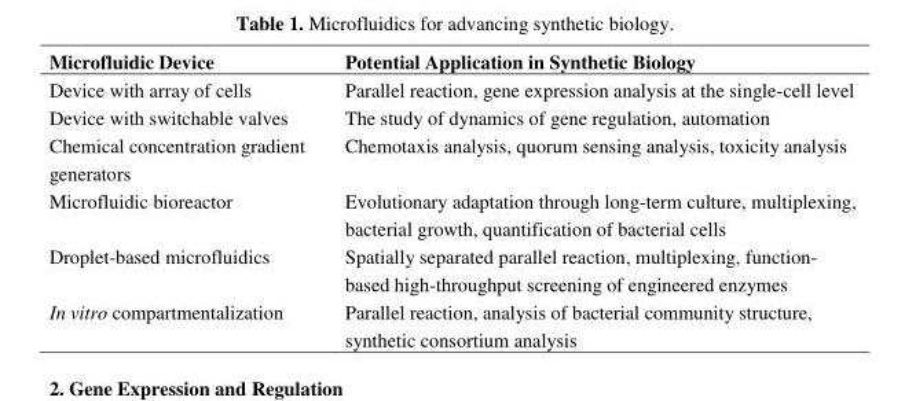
<table><thead><tr><td>Microfluidic Device</td><td>Potential Application in Synthetic Biology</td></tr></thead><tbody><tr><td>Device with array of cells</td><td>Parallel reaction, gene expression analysis at the single-cell level</td></tr><tr><td>Device with switchable valves</td><td>The study of dynamics of gene regulation, automation</td></tr><tr><td>Chemical concentration gradient generators</td><td>Chemotaxis analysis, quorum sensing analysis, toxicity analysis</td></tr><tr><td>Microfluidic bioreactor</td><td>Evolutionary adaptation through long-term culture, multiplexing, bacterial growth, quantification of bacterial cells</td></tr><tr><td>Droplet-based microfluidics</td><td>Spatially separated parallel reaction, multiplexing, function- based high-throughput screening of engineered enzymes</td></tr><tr><td>In vitro compartmentalization</td><td>Parallel reaction, analysis of bacterial community structure, synthetic consortium analysis</td></tr></tbody></table>